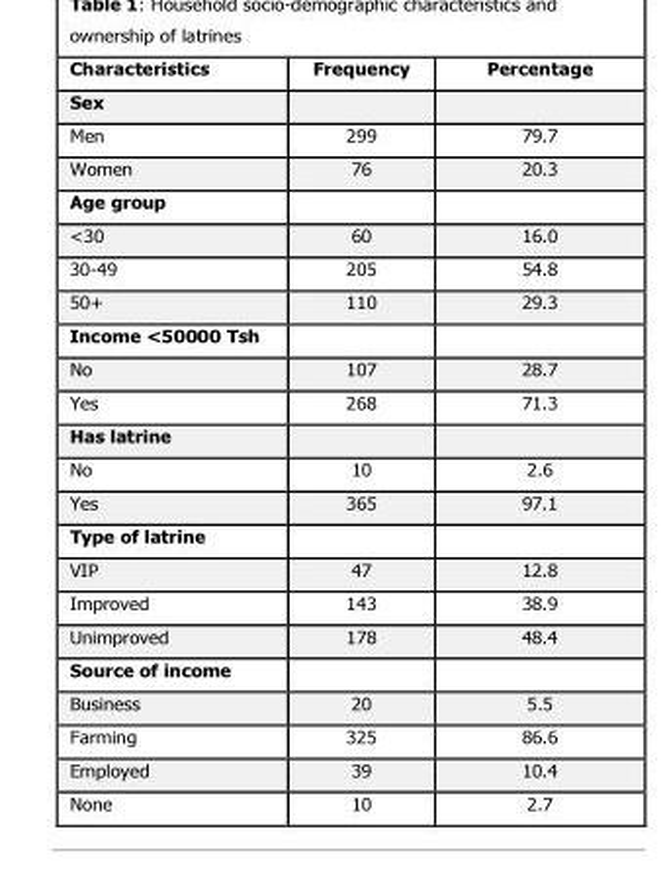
<table><thead><tr><td>Characteristics</td><td>Frequency</td><td>Percentage</td></tr></thead><tbody><tr><td colspan="3">Sex</td></tr><tr><td>Men</td><td>299</td><td>79.7</td></tr><tr><td>Women</td><td>76</td><td>20.3</td></tr><tr><td colspan="3">Age group</td></tr><tr><td>&lt;30</td><td>60</td><td>16.0</td></tr><tr><td>30-49</td><td>205</td><td>54.8</td></tr><tr><td>50+</td><td>110</td><td>29.3</td></tr><tr><td colspan="3">Income &lt;50000 Tsh</td></tr><tr><td>No</td><td>107</td><td>28.7</td></tr><tr><td>Yes</td><td>268</td><td>71.3</td></tr><tr><td colspan="3">Has latrine</td></tr><tr><td>No</td><td>10</td><td>2.6</td></tr><tr><td>Yes</td><td>365</td><td>97.1</td></tr><tr><td colspan="3">Type of latrine</td></tr><tr><td>VIP</td><td>47</td><td>12.8</td></tr><tr><td>Improved</td><td>143</td><td>38.9</td></tr><tr><td>Unimproved</td><td>178</td><td>48.4</td></tr><tr><td colspan="3">Source of income</td></tr><tr><td>Business</td><td>20</td><td>5.5</td></tr><tr><td>Farming</td><td>325</td><td>86.6</td></tr><tr><td>Employed</td><td>39</td><td>10.4</td></tr><tr><td>None</td><td>10</td><td>2.7</td></tr></tbody></table>